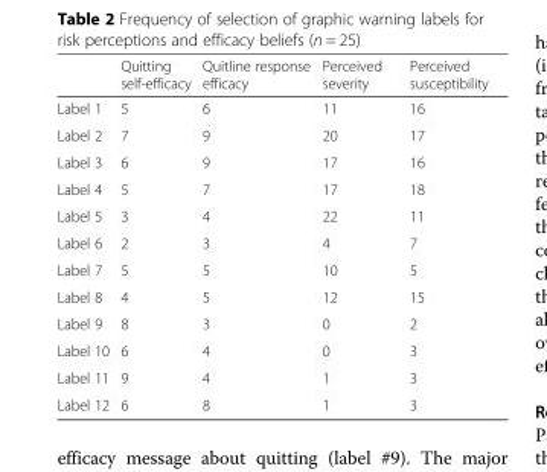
<table><thead><tr><td></td><td>Quitting self-efficacy</td><td>Quitline response efficacy</td><td>Perceived severity</td><td>Perceived susceptibility</td></tr></thead><tbody><tr><td>Label 1</td><td>5</td><td>6</td><td>11</td><td>16</td></tr><tr><td>Label 2</td><td>7</td><td>9</td><td>20</td><td>17</td></tr><tr><td>Label 3</td><td>6</td><td>9</td><td>17</td><td>16</td></tr><tr><td>Label 4</td><td>5</td><td>7</td><td>17</td><td>18</td></tr><tr><td>Label 5</td><td>3</td><td>4</td><td>22</td><td>11</td></tr><tr><td>Label 6</td><td>2</td><td>3</td><td>4</td><td>7</td></tr><tr><td>Label 7</td><td>5</td><td>5</td><td>10</td><td>5</td></tr><tr><td>Label 8</td><td>4</td><td>5</td><td>12</td><td>15</td></tr><tr><td>Label 9</td><td>8</td><td>3</td><td>0</td><td>2</td></tr><tr><td>Label 10</td><td>6</td><td>4</td><td>0</td><td>3</td></tr><tr><td>Label 11</td><td>9</td><td>4</td><td>1</td><td>3</td></tr><tr><td>Label 12</td><td>6</td><td>8</td><td>1</td><td>3</td></tr></tbody></table>